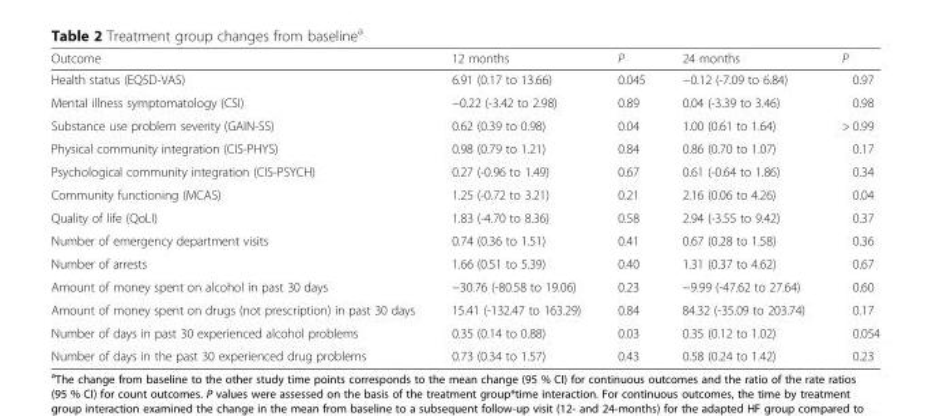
<table><thead><tr><td>Outcome</td><td>12 months</td><td>P</td><td>24 months</td><td>P</td></tr></thead><tbody><tr><td>Health status (EQ5D-VAS)</td><td>6.91 (0.17 to 13.66)</td><td>0.045</td><td>−0.12 (-7.09 to 6.84)</td><td>0.97</td></tr><tr><td>Mental illness symptomatology (CSI)</td><td>−0.22 (-3.42 to 2.98)</td><td>0.89</td><td>0.04 (-3.39 to 3.46)</td><td>0.98</td></tr><tr><td>Substance use problem severity (GAIN-SS)</td><td>0.62 (0.39 to 0.98)</td><td>0.04</td><td>1.00 (0.61 to 1.64)</td><td>&gt; 0.99</td></tr><tr><td>Physical community integration (CIS-PHYS)</td><td>0.98 (0.79 to 1.21)</td><td>0.84</td><td>0.86 (0.70 to 1.07)</td><td>0.17</td></tr><tr><td>Psychological community integration (CIS-PSYCH)</td><td>0.27 (-0.96 to 1.49)</td><td>0.67</td><td>0.61 (-0.64 to 1.86)</td><td>0.34</td></tr><tr><td>Community functioning (MCAS)</td><td>1.25 (-0.72 to 3.21)</td><td>0.21</td><td>2.16 (0.06 to 4.26)</td><td>0.04</td></tr><tr><td>Quality of life (QoLI)</td><td>1.83 (-4.70 to 8.36)</td><td>0.58</td><td>2.94 (-3.55 to 9.42)</td><td>0.37</td></tr><tr><td>Number of emergency department visits</td><td>0.74 (0.36 to 1.51)</td><td>0.41</td><td>0.67 (0.28 to 1.58)</td><td>0.36</td></tr><tr><td>Number of arrests</td><td>1.66 (0.51 to 5.39)</td><td>0.40</td><td>1.31 (0.37 to 4.62)</td><td>0.67</td></tr><tr><td>Amount of money spent on alcohol in past 30 days</td><td>−30.76 (-80.58 to 19.06)</td><td>0.23</td><td>−9.99 (-47.62 to 27.64)</td><td>0.60</td></tr><tr><td>Amount of money spent on drugs (not prescription) in past 30 days</td><td>15.41 (-132.47 to 163.29)</td><td>0.84</td><td>84.32 (-35.09 to 203.74)</td><td>0.17</td></tr><tr><td>Number of days in past 30 experienced alcohol problems</td><td>0.35 (0.14 to 0.88)</td><td>0.03</td><td>0.35 (0.12 to 1.02)</td><td>0.054</td></tr><tr><td>Number of days in the past 30 experienced drug problems</td><td>0.73 (0.34 to 1.57)</td><td>0.43</td><td>0.58 (0.24 to 1.42)</td><td>0.23</td></tr></tbody></table>